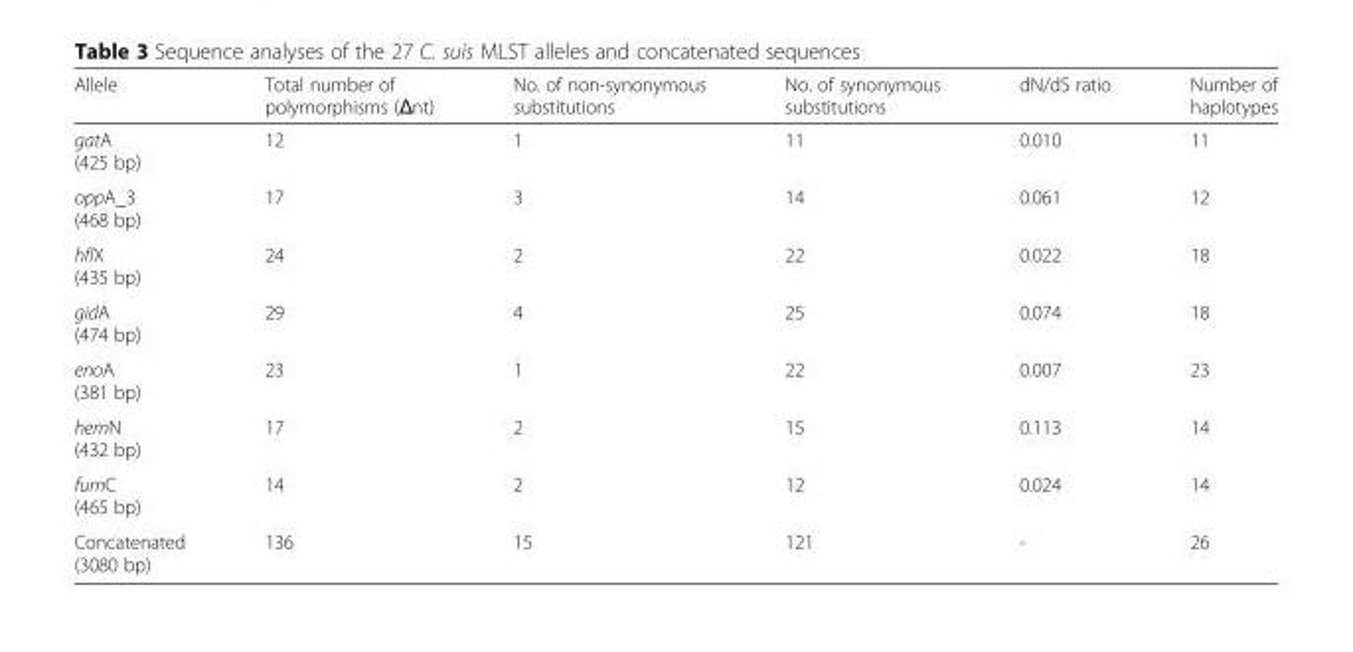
<table><thead><tr><td>Allele</td><td>Total number of polymorphisms (Δnt)</td><td>No. of non-synonymous substitutions</td><td>No. of synonymous substitutions</td><td>dN/dS ratio</td><td>Number of haplotypes</td></tr></thead><tbody><tr><td>gatA (425 bp)</td><td>12</td><td>1</td><td>11</td><td>0.010</td><td>11</td></tr><tr><td>oppA_3 (468 bp)</td><td>17</td><td>3</td><td>14</td><td>0.061</td><td>12</td></tr><tr><td>hflX (435 bp)</td><td>24</td><td>2</td><td>22</td><td>0.022</td><td>18</td></tr><tr><td>gidA (474 bp)</td><td>29</td><td>4</td><td>25</td><td>0.074</td><td>18</td></tr><tr><td>enoA (381 bp)</td><td>23</td><td>1</td><td>22</td><td>0.007</td><td>23</td></tr><tr><td>hemN (432 bp)</td><td>17</td><td>2</td><td>15</td><td>0.113</td><td>14</td></tr><tr><td>fumC (465 bp)</td><td>14</td><td>2</td><td>12</td><td>0.024</td><td>14</td></tr><tr><td>Concatenated (3080 bp)</td><td>136</td><td>15</td><td>121</td><td>-</td><td>26</td></tr></tbody></table>